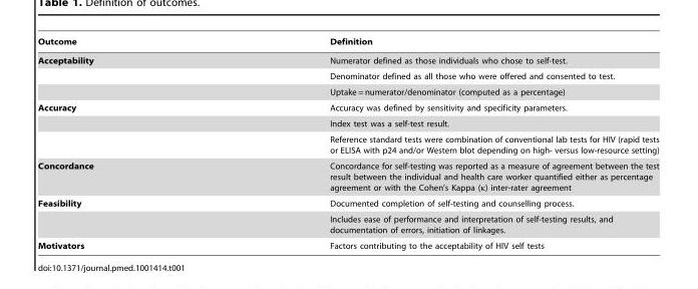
<table><thead><tr><td>Outcome</td><td>Definition</td></tr></thead><tbody><tr><td rowspan="3">Acceptability</td><td>Numerator defined as those individuals who chose to self-test.</td></tr><tr><td>Denominator defined as all those who were offered and consented to test.</td></tr><tr><td>Uptake = numerator/denominator (computed as a percentage)</td></tr><tr><td rowspan="3">Accuracy</td><td>Accuracy was defined by sensitivity and specificity parameters.</td></tr><tr><td>Index test was a self-test result.</td></tr><tr><td>Reference standard tests were combination of conventional lab tests for HIV (rapid tests or ELISA with p24 and/or Western blot depending on high- versus low-resource setting)</td></tr><tr><td>Concordance</td><td>Concordance for self-testing was reported as a measure of agreement between the test result between the individual and health care worker quantified either as percentage agreement or with the Cohen’s Kappa (κ) inter-rater agreement</td></tr><tr><td rowspan="2">Feasibility</td><td>Documented completion of self-testing and counselling process.</td></tr><tr><td>Includes ease of performance and interpretation of self-testing results, and documentation of errors, initiation of linkages.</td></tr><tr><td>Motivators</td><td>Factors contributing to the acceptability of HIV self tests</td></tr></tbody></table>